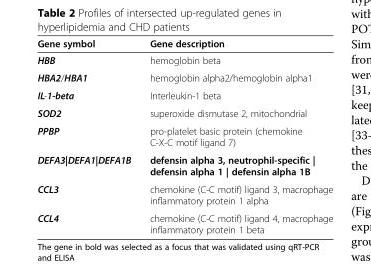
<table><thead><tr><td>Gene symbol</td><td>Gene description</td></tr></thead><tbody><tr><td>HBB</td><td>hemoglobin beta</td></tr><tr><td>HBA2/HBA1</td><td>hemoglobin alpha2/hemoglobin alpha1</td></tr><tr><td>IL-1-beta</td><td>Interleukin-1 beta</td></tr><tr><td>SOD2</td><td>superoxide dismutase 2, mitochondrial</td></tr><tr><td>PPBP</td><td>pro-platelet basic protein (chemokine C-X-C motif ligand 7)</td></tr><tr><td>DEFA3|DEFA1|DEFA1B</td><td>defensin alpha 3, neutrophil-specific | defensin alpha 1 | defensin alpha 1B</td></tr><tr><td>CCL3</td><td>chemokine (C-C motif) ligand 3, macrophage inflammatory protein 1 alpha</td></tr><tr><td>CCL4</td><td>chemokine (C-C motif) ligand 4, macrophage inflammatory protein 1 beta</td></tr></tbody></table>